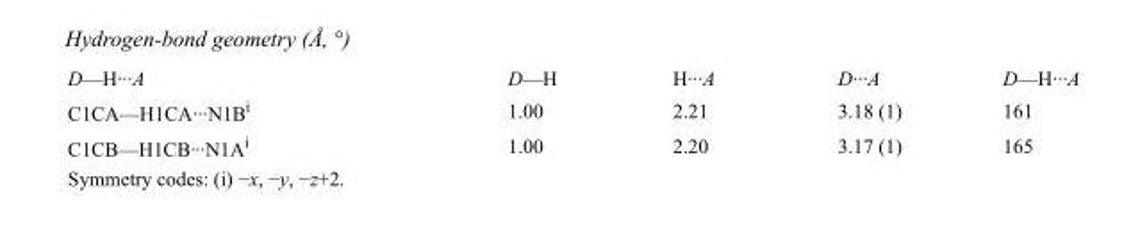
<table><tbody><tr><td>D—H···A</td><td>D—H</td><td>H···A</td><td>D···A</td><td>D—H···A</td></tr><tr><td>C1CA—H1CA···N1B<sup>i</sup></td><td>1.00</td><td>2.21</td><td>3.18 (1)</td><td>161</td></tr><tr><td>C1CB—H1CB···N1A<sup>i</sup></td><td>1.00</td><td>2.20</td><td>3.17 (1)</td><td>165</td></tr></tbody></table>